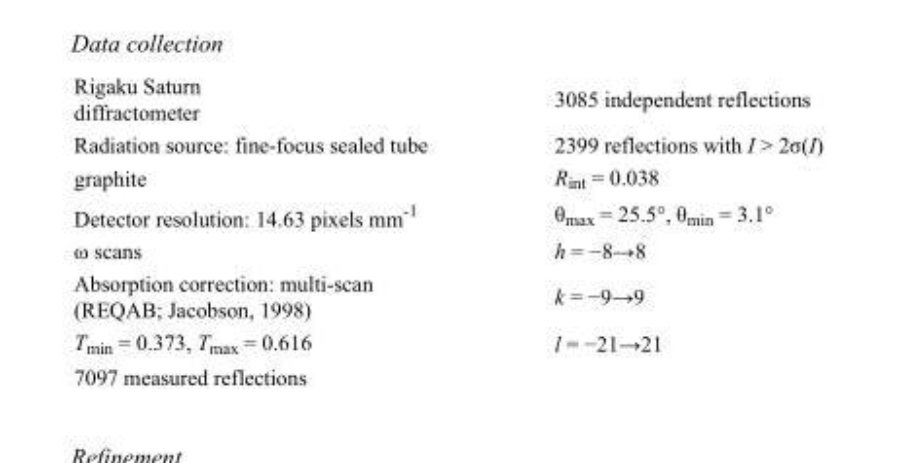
<table><tbody><tr><td>Rigaku Saturn diffractometer</td><td>3085 independent reflections</td></tr><tr><td>Radiation source: fine-focus sealed tube</td><td>2399 reflections with I &gt; 2σ(I)</td></tr><tr><td>graphite</td><td>R<sub>int</sub> = 0.038</td></tr><tr><td>Detector resolution: 14.63 pixels mm<sup>-1</sup></td><td>θ<sub>max</sub> = 25.5°, θ<sub>min</sub> = 3.1°</td></tr><tr><td>ω scans</td><td>h = −8→8</td></tr><tr><td>Absorption correction: multi-scan (REQAB; Jacobson, 1998)</td><td>k = −9→9</td></tr><tr><td>T<sub>min</sub> = 0.373, T<sub>max</sub> = 0.616</td><td>l = −21→21</td></tr><tr><td>7097 measured reflections</td><td></td></tr></tbody></table>